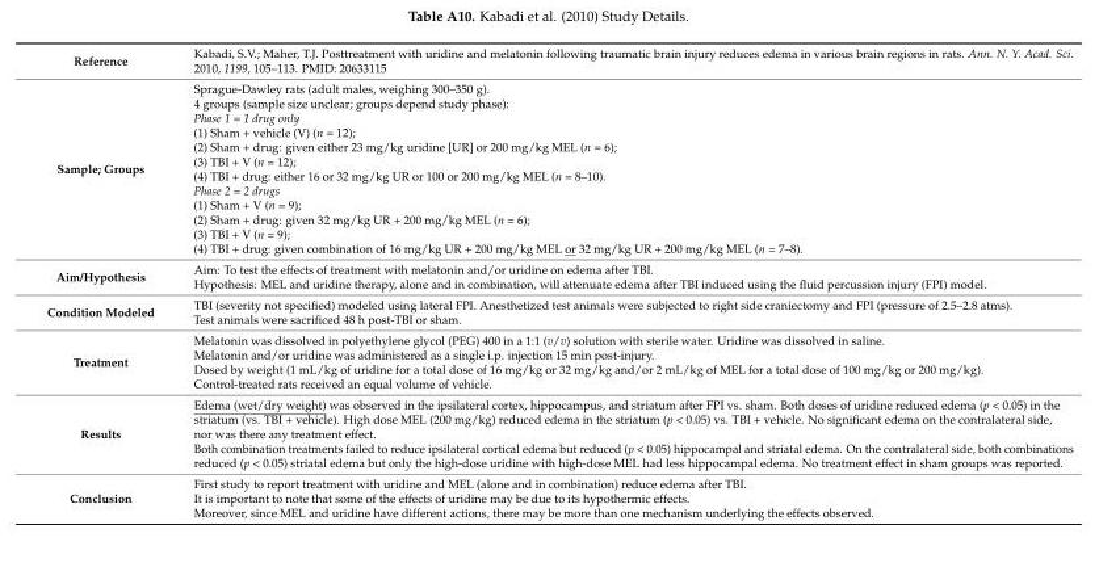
<table><tbody><tr><td>Reference</td><td>Kabadi, S.V.; Maher, T.J. Posttreatment with uridine and melatonin following traumatic brain injury reduces edema in various brain regions in rats. Ann. N. Y. Acad. Sci. 2010, 1199, 105–113. PMID: 20633115</td></tr><tr><td>Sample; Groups</td><td>Sprague-Dawley rats (adult males, weighing 300–350 g). 4 groups (sample size unclear; groups depend study phase): Phase 1 = 1 drug only (1) Sham + vehicle (V) (n = 12); (2) Sham + drug: given either 23 mg/kg uridine [UR] or 200 mg/kg MEL (n = 6); (3) TBI + V (n = 12); (4) TBI + drug: either 16 or 32 mg/kg UR or 100 or 200 mg/kg MEL (n = 8–10). Phase 2 = 2 drugs (1) Sham + V (n = 9); (2) Sham + drug: given 32 mg/kg UR + 200 mg/kg MEL (n = 6); (3) TBI + V (n = 9); (4) TBI + drug: given combination of 16 mg/kg UR + 200 mg/kg MEL or 32 mg/kg UR + 200 mg/kg MEL (n = 7–8).</td></tr><tr><td>Aim/Hypothesis</td><td>Aim: To test the effects of treatment with melatonin and/or uridine on edema after TBI. Hypothesis: MEL and uridine therapy, alone and in combination, will attenuate edema after TBI induced using the fluid percussion injury (FPI) model.</td></tr><tr><td>Condition Modeled</td><td>TBI (severity not specified) modeled using lateral FPI. Anesthetized test animals were subjected to right side craniectomy and FPI (pressure of 2.5–2.8 atms). Test animals were sacrificed 48 h post-TBI or sham.</td></tr><tr><td>Treatment</td><td>Melatonin was dissolved in polyethylene glycol (PEG) 400 in a 1:1 (v/v) solution with sterile water. Uridine was dissolved in saline. Melatonin and/or uridine was administered as a single i.p. injection 15 min post-injury. Dosed by weight (1 mL/kg of uridine for a total dose of 16 mg/kg or 32 mg/kg and/or 2 mL/kg of MEL for a total dose of 100 mg/kg or 200 mg/kg). Control-treated rats received an equal volume of vehicle.</td></tr><tr><td>Results</td><td>Edema (wet/dry weight) was observed in the ipsilateral cortex, hippocampus, and striatum after FPI vs. sham. Both doses of uridine reduced edema (p &lt; 0.05) in the striatum (vs. TBI + vehicle). High dose MEL (200 mg/kg) reduced edema in the striatum (p &lt; 0.05) vs. TBI + vehicle. No significant edema on the contralateral side, nor was there any treatment effect. Both combination treatments failed to reduce ipsilateral cortical edema but reduced (p &lt; 0.05) hippocampal and striatal edema. On the contralateral side, both combinations reduced (p &lt; 0.05) striatal edema but only the high-dose uridine with high-dose MEL had less hippocampal edema. No treatment effect in sham groups was reported.</td></tr><tr><td>Conclusion</td><td>First study to report treatment with uridine and MEL (alone and in combination) reduce edema after TBI. It is important to note that some of the effects of uridine may be due to its hypothermic effects. Moreover, since MEL and uridine have different actions, there may be more than one mechanism underlying the effects observed.</td></tr></tbody></table>